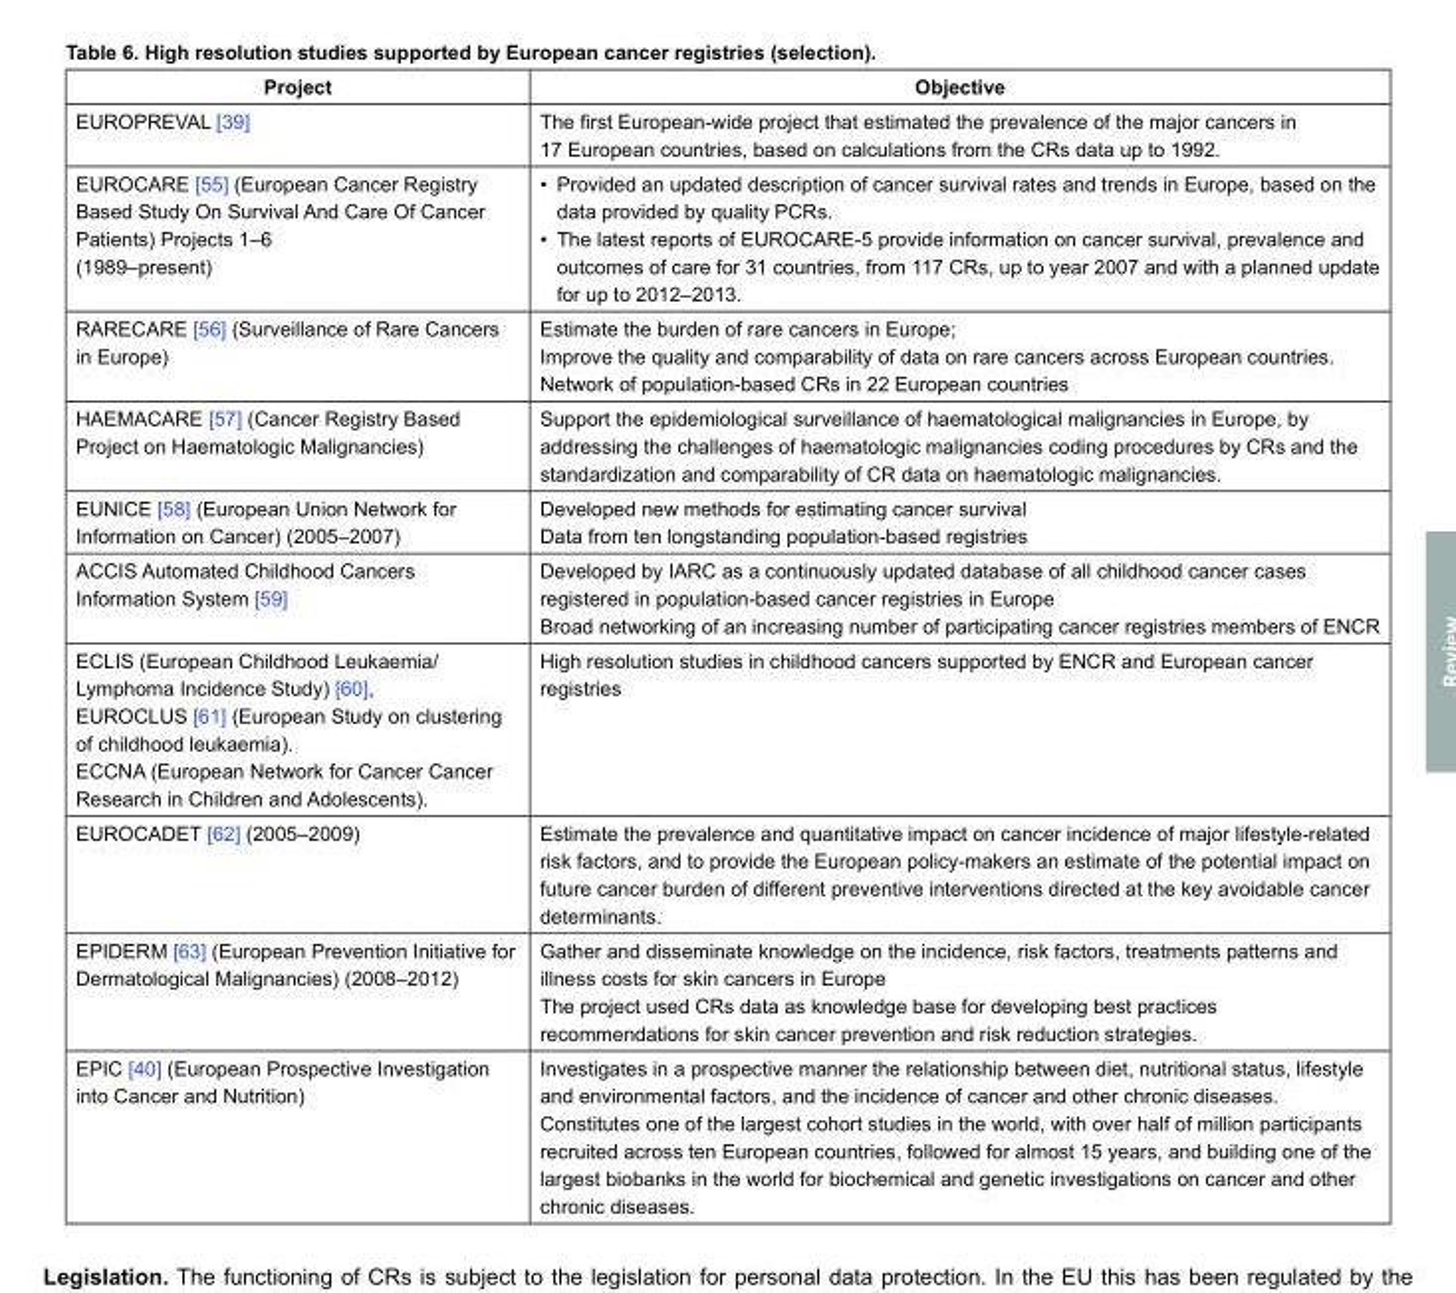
<table><thead><tr><td>Project</td><td>Objective</td></tr></thead><tbody><tr><td>EUROPREVAL [39]</td><td>The first European-wide project that estimated the prevalence of the major cancers in 17 European countries, based on calculations from the CRs data up to 1992.</td></tr><tr><td>EUROCARE [55] (European Cancer Registry Based Study On Survival And Care Of Cancer Patients) Projects 1–6 (1989–present)</td><td>• Provided an updated description of cancer survival rates and trends in Europe, based on the data provided by quality PCRs. • The latest reports of EUROCARE-5 provide information on cancer survival, prevalence and outcomes of care for 31 countries, from 117 CRs, up to year 2007 and with a planned update for up to 2012–2013.</td></tr><tr><td>RARECARE [56] (Surveillance of Rare Cancers in Europe)</td><td>Estimate the burden of rare cancers in Europe; Improve the quality and comparability of data on rare cancers across European countries. Network of population-based CRs in 22 European countries</td></tr><tr><td>HAEMACARE [57] (Cancer Registry Based Project on Haematologic Malignancies)</td><td>Support the epidemiological surveillance of haematological malignancies in Europe, by addressing the challenges of haematologic malignancies coding procedures by CRs and the standardization and comparability of CR data on haematologic malignancies.</td></tr><tr><td>EUNICE [58] (European Union Network for Information on Cancer) (2005–2007)</td><td>Developed new methods for estimating cancer survival Data from ten longstanding population-based registries</td></tr><tr><td>ACCIS Automated Childhood Cancers Information System [59]</td><td>Developed by IARC as a continuously updated database of all childhood cancer cases registered in population-based cancer registries in Europe Broad networking of an increasing number of participating cancer registries members of ENCR</td></tr><tr><td>ECLIS (European Childhood Leukaemia/ Lymphoma Incidence Study) [60], EUROCLUS [61] (European Study on clustering of childhood leukaemia). ECCNA (European Network for Cancer Cancer Research in Children and Adolescents).</td><td>High resolution studies in childhood cancers supported by ENCR and European cancer registries</td></tr><tr><td>EUROCADET [62] (2005–2009)</td><td>Estimate the prevalence and quantitative impact on cancer incidence of major lifestyle-related risk factors, and to provide the European policy-makers an estimate of the potential impact on future cancer burden of different preventive interventions directed at the key avoidable cancer determinants.</td></tr><tr><td>EPIDERM [63] (European Prevention Initiative for Dermatological Malignancies) (2008–2012)</td><td>Gather and disseminate knowledge on the incidence, risk factors, treatments patterns and illness costs for skin cancers in Europe The project used CRs data as knowledge base for developing best practices recommendations for skin cancer prevention and risk reduction strategies.</td></tr><tr><td>EPIC [40] (European Prospective Investigation into Cancer and Nutrition)</td><td>Investigates in a prospective manner the relationship between diet, nutritional status, lifestyle and environmental factors, and the incidence of cancer and other chronic diseases. Constitutes one of the largest cohort studies in the world, with over half of million participants recruited across ten European countries, followed for almost 15 years, and building one of the largest biobanks in the world for biochemical and genetic investigations on cancer and other chronic diseases.</td></tr></tbody></table>